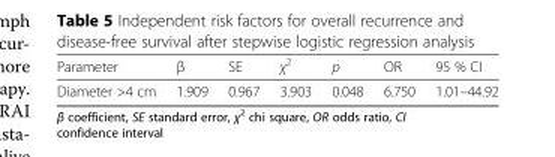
<table><thead><tr><td>Parameter</td><td>β</td><td>SE</td><td>χ<sup>2</sup></td><td>p</td><td>OR</td><td>95 % CI</td></tr></thead><tbody><tr><td>Diameter &gt;4 cm</td><td>1.909</td><td>0.967</td><td>3.903</td><td>0.048</td><td>6.750</td><td>1.01–44.92</td></tr></tbody></table>